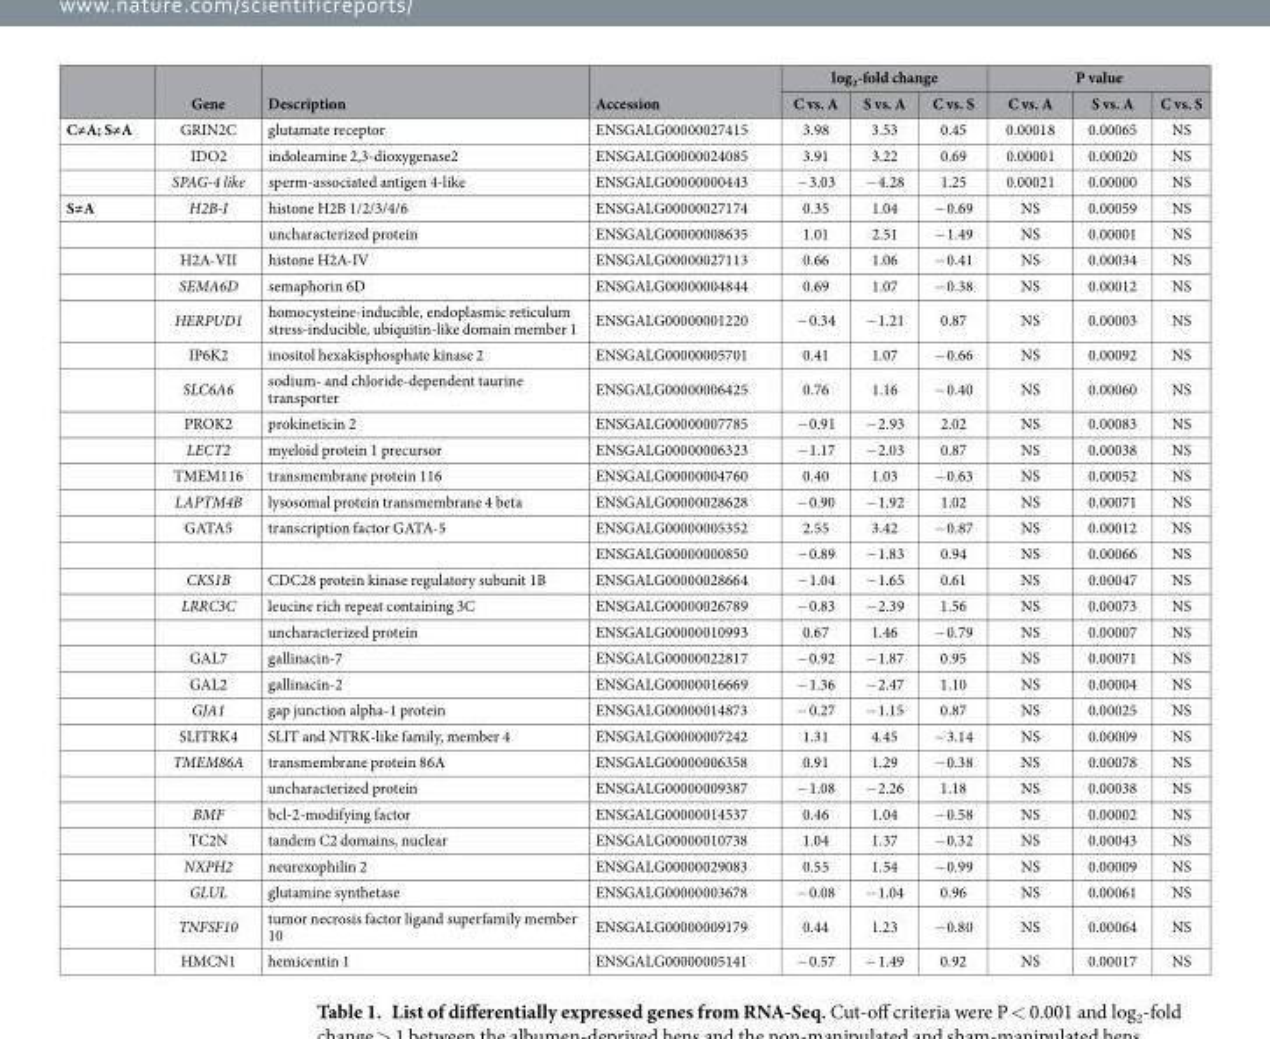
<table><thead><tr><td rowspan="2"></td><td rowspan="2">Gene</td><td rowspan="2">Description</td><td rowspan="2">Accession</td><td colspan="3">log<sub>2</sub>-fold change</td><td colspan="3">P value</td></tr><tr><td>C vs. A</td><td>S vs. A</td><td>C vs. S</td><td>C vs. A</td><td>S vs. A</td><td>C vs. S</td></tr></thead><tbody><tr><td rowspan="3">C≠A; S≠A</td><td>GRIN2C</td><td>glutamate receptor</td><td>ENSGALG00000027415</td><td>3.98</td><td>3.53</td><td>0.45</td><td>0.00018</td><td>0.00065</td><td>NS</td></tr><tr><td>IDO2</td><td>indoleamine 2,3-dioxygenase2</td><td>ENSGALG00000024085</td><td>3.91</td><td>3.22</td><td>0.69</td><td>0.00001</td><td>0.00020</td><td>NS</td></tr><tr><td>SPAG-4 like</td><td>sperm-associated antigen 4-like</td><td>ENSGALG00000000443</td><td>− 3.03</td><td>− 4.28</td><td>1.25</td><td>0.00021</td><td>0.00000</td><td>NS</td></tr><tr><td rowspan="28">S≠A</td><td>H2B-I</td><td>histone H2B 1/2/3/4/6</td><td>ENSGALG00000027174</td><td>0.35</td><td>1.04</td><td>− 0.69</td><td>NS</td><td>0.00059</td><td>NS</td></tr><tr><td></td><td>uncharacterized protein</td><td>ENSGALG00000008635</td><td>1.01</td><td>2.51</td><td>− 1.49</td><td>NS</td><td>0.00001</td><td>NS</td></tr><tr><td>H2A-VII</td><td>histone H2A-IV</td><td>ENSGALG00000027113</td><td>0.66</td><td>1.06</td><td>− 0.41</td><td>NS</td><td>0.00034</td><td>NS</td></tr><tr><td>SEMA6D</td><td>semaphorin 6D</td><td>ENSGALG00000004844</td><td>0.69</td><td>1.07</td><td>− 0.38</td><td>NS</td><td>0.00012</td><td>NS</td></tr><tr><td>HERPUD1</td><td>homocysteine-inducible, endoplasmic reticulum stress-inducible, ubiquitin-like domain member 1</td><td>ENSGALG00000001220</td><td>− 0.34</td><td>− 1.21</td><td>0.87</td><td>NS</td><td>0.00003</td><td>NS</td></tr><tr><td>IP6K2</td><td>inositol hexakisphosphate kinase 2</td><td>ENSGALG00000005701</td><td>0.41</td><td>1.07</td><td>− 0.66</td><td>NS</td><td>0.00092</td><td>NS</td></tr><tr><td>SLC6A6</td><td>sodium- and chloride-dependent taurine transporter</td><td>ENSGALG00000006425</td><td>0.76</td><td>1.16</td><td>− 0.40</td><td>NS</td><td>0.00060</td><td>NS</td></tr><tr><td>PROK2</td><td>prokineticin 2</td><td>ENSGALG00000007785</td><td>− 0.91</td><td>− 2.93</td><td>2.02</td><td>NS</td><td>0.00083</td><td>NS</td></tr><tr><td>LECT2</td><td>myeloid protein 1 precursor</td><td>ENSGALG00000006323</td><td>− 1.17</td><td>− 2.03</td><td>0.87</td><td>NS</td><td>0.00038</td><td>NS</td></tr><tr><td>TMEM116</td><td>transmembrane protein 116</td><td>ENSGALG00000004760</td><td>0.40</td><td>1.03</td><td>− 0.63</td><td>NS</td><td>0.00052</td><td>NS</td></tr><tr><td>LAPTM4B</td><td>lysosomal protein transmembrane 4 beta</td><td>ENSGALG00000028628</td><td>− 0.90</td><td>− 1.92</td><td>1.02</td><td>NS</td><td>0.00071</td><td>NS</td></tr><tr><td>GATA5</td><td>transcription factor GATA-5</td><td>ENSGALG00000005352</td><td>2.55</td><td>3.42</td><td>− 0.87</td><td>NS</td><td>0.00012</td><td>NS</td></tr><tr><td></td><td></td><td>ENSGALG00000000850</td><td>− 0.89</td><td>− 1.83</td><td>0.94</td><td>NS</td><td>0.00066</td><td>NS</td></tr><tr><td>CKS1B</td><td>CDC28 protein kinase regulatory subunit 1B</td><td>ENSGALG00000028664</td><td>− 1.04</td><td>− 1.65</td><td>0.61</td><td>NS</td><td>0.00047</td><td>NS</td></tr><tr><td>LRRC3C</td><td>leucine rich repeat containing 3C</td><td>ENSGALG00000026789</td><td>− 0.83</td><td>− 2.39</td><td>1.56</td><td>NS</td><td>0.00073</td><td>NS</td></tr><tr><td></td><td>uncharacterized protein</td><td>ENSGALG00000010993</td><td>0.67</td><td>1.46</td><td>− 0.79</td><td>NS</td><td>0.00007</td><td>NS</td></tr><tr><td>GAL7</td><td>gallinacin-7</td><td>ENSGALG00000022817</td><td>− 0.92</td><td>− 1.87</td><td>0.95</td><td>NS</td><td>0.00071</td><td>NS</td></tr><tr><td>GAL2</td><td>gallinacin-2</td><td>ENSGALG00000016669</td><td>− 1.36</td><td>− 2.47</td><td>1.10</td><td>NS</td><td>0.00004</td><td>NS</td></tr><tr><td>GJA1</td><td>gap junction alpha-1 protein</td><td>ENSGALG00000014873</td><td>− 0.27</td><td>− 1.15</td><td>0.87</td><td>NS</td><td>0.00025</td><td>NS</td></tr><tr><td>SLITRK4</td><td>SLIT and NTRK-like family, member 4</td><td>ENSGALG00000007242</td><td>1.31</td><td>4.45</td><td>− 3.14</td><td>NS</td><td>0.00009</td><td>NS</td></tr><tr><td>TMEM86A</td><td>transmembrane protein 86A</td><td>ENSGALG00000006358</td><td>0.91</td><td>1.29</td><td>− 0.38</td><td>NS</td><td>0.00078</td><td>NS</td></tr><tr><td></td><td>uncharacterized protein</td><td>ENSGALG00000009387</td><td>− 1.08</td><td>− 2.26</td><td>1.18</td><td>NS</td><td>0.00038</td><td>NS</td></tr><tr><td>BMF</td><td>bcl-2-modifying factor</td><td>ENSGALG00000014537</td><td>0.46</td><td>1.04</td><td>− 0.58</td><td>NS</td><td>0.00002</td><td>NS</td></tr><tr><td>TC2N</td><td>tandem C2 domains, nuclear</td><td>ENSGALG00000010738</td><td>1.04</td><td>1.37</td><td>− 0.32</td><td>NS</td><td>0.00043</td><td>NS</td></tr><tr><td>NXPH2</td><td>neurexophilin 2</td><td>ENSGALG00000029083</td><td>0.55</td><td>1.54</td><td>− 0.99</td><td>NS</td><td>0.00009</td><td>NS</td></tr><tr><td>GLUL</td><td>glutamine synthetase</td><td>ENSGALG00000003678</td><td>− 0.08</td><td>− 1.04</td><td>0.96</td><td>NS</td><td>0.00061</td><td>NS</td></tr><tr><td>TNFSF10</td><td>tumor necrosis factor ligand superfamily member 10</td><td>ENSGALG00000009179</td><td>0.44</td><td>1.23</td><td>− 0.80</td><td>NS</td><td>0.00064</td><td>NS</td></tr><tr><td>HMCN1</td><td>hemicentin 1</td><td>ENSGALG00000005141</td><td>− 0.57</td><td>− 1.49</td><td>0.92</td><td>NS</td><td>0.00017</td><td>NS</td></tr></tbody></table>